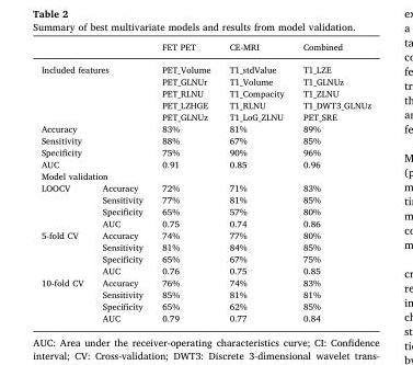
<table><thead><tr><td></td><td></td><td>FET PET</td><td>CE-MRI</td><td>Combined</td></tr></thead><tbody><tr><td rowspan="5" colspan="2">Included features</td><td>PET_Volume</td><td>T1_stdValue</td><td>T1_LZE</td></tr><tr><td>PET_GLNUr</td><td>T1_Volume</td><td>T1_GLNUz</td></tr><tr><td>PET_RLNU</td><td>T1_Compacity</td><td>T1_ZLNU</td></tr><tr><td>PET_LZHGE</td><td>T1_RLNU</td><td>T1_DWT3_GLNUz</td></tr><tr><td>PET_GLNUz</td><td>T1_LoG_ZLNU</td><td>PET_SRE</td></tr><tr><td colspan="2">Accuracy</td><td>83%</td><td>81%</td><td>89%</td></tr><tr><td colspan="2">Sensitivity</td><td>88%</td><td>67%</td><td>85%</td></tr><tr><td colspan="2">Specificity</td><td>75%</td><td>90%</td><td>96%</td></tr><tr><td colspan="2">AUC</td><td>0.91</td><td>0.85</td><td>0.96</td></tr><tr><td colspan="5">Model validation</td></tr><tr><td rowspan="4">LOOCV</td><td>Accuracy</td><td>72%</td><td>71%</td><td>83%</td></tr><tr><td>Sensitivity</td><td>77%</td><td>81%</td><td>85%</td></tr><tr><td>Specificity</td><td>65%</td><td>57%</td><td>80%</td></tr><tr><td>AUC</td><td>0.75</td><td>0.74</td><td>0.86</td></tr><tr><td rowspan="4">5-fold CV</td><td>Accuracy</td><td>74%</td><td>77%</td><td>80%</td></tr><tr><td>Sensitivity</td><td>81%</td><td>84%</td><td>85%</td></tr><tr><td>Specificity</td><td>65%</td><td>67%</td><td>75%</td></tr><tr><td>AUC</td><td>0.76</td><td>0.75</td><td>0.85</td></tr><tr><td rowspan="4">10-fold CV</td><td>Accuracy</td><td>76%</td><td>74%</td><td>83%</td></tr><tr><td>Sensitivity</td><td>85%</td><td>81%</td><td>81%</td></tr><tr><td>Specificity</td><td>65%</td><td>62%</td><td>85%</td></tr><tr><td>AUC</td><td>0.79</td><td>0.77</td><td>0.84</td></tr></tbody></table>